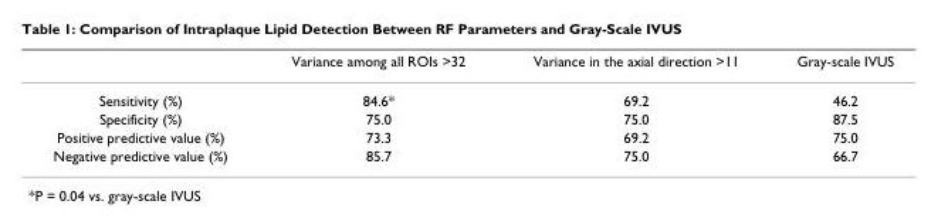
<table><thead><tr><td></td><td>Variance among all ROIs &gt;32</td><td>Variance in the axial direction &gt;11</td><td>Gray-scale IVUS</td></tr></thead><tbody><tr><td>Sensitivity (%)</td><td>84.6*</td><td>69.2</td><td>46.2</td></tr><tr><td>Specificity (%)</td><td>75.0</td><td>75.0</td><td>87.5</td></tr><tr><td>Positive predictive value (%)</td><td>73.3</td><td>69.2</td><td>75.0</td></tr><tr><td>Negative predictive value (%)</td><td>85.7</td><td>75.0</td><td>66.7</td></tr></tbody></table>